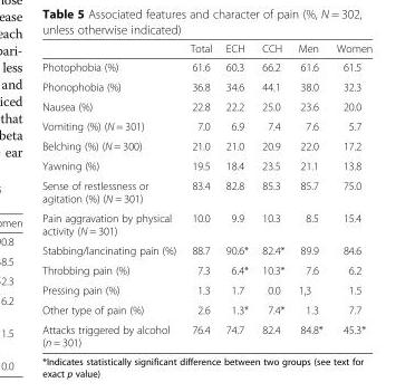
<table><thead><tr><td></td><td>Total</td><td>ECH</td><td>CCH</td><td>Men</td><td>Women</td></tr></thead><tbody><tr><td>Photophobia (%)</td><td>61.6</td><td>60.3</td><td>66.2</td><td>61.6</td><td>61.5</td></tr><tr><td>Phonophobia (%)</td><td>36.8</td><td>34.6</td><td>44.1</td><td>38.0</td><td>32.3</td></tr><tr><td>Nausea (%)</td><td>22.8</td><td>22.2</td><td>25.0</td><td>23.6</td><td>20.0</td></tr><tr><td>Vomiting (%) (N = 301)</td><td>7.0</td><td>6.9</td><td>7.4</td><td>7.6</td><td>5.7</td></tr><tr><td>Belching (%) (N = 300)</td><td>21.0</td><td>21.0</td><td>20.9</td><td>22.0</td><td>17.2</td></tr><tr><td>Yawning (%)</td><td>19.5</td><td>18.4</td><td>23.5</td><td>21.1</td><td>13.8</td></tr><tr><td>Sense of restlessness or agitation (%) (N = 301)</td><td>83.4</td><td>82.8</td><td>85.3</td><td>85.7</td><td>75.0</td></tr><tr><td>Pain aggravation by physical activity (N = 301)</td><td>10.0</td><td>9.9</td><td>10.3</td><td>8.5</td><td>15.4</td></tr><tr><td>Stabbing/lancinating pain (%)</td><td>88.7</td><td>90.6*</td><td>82.4*</td><td>89.9</td><td>84.6</td></tr><tr><td>Throbbing pain (%)</td><td>7.3</td><td>6.4*</td><td>10.3*</td><td>7.6</td><td>6.2</td></tr><tr><td>Pressing pain (%)</td><td>1.3</td><td>1.7</td><td>0.0</td><td>1,3</td><td>1.5</td></tr><tr><td>Other type of pain (%)</td><td>2.6</td><td>1.3*</td><td>7.4*</td><td>1.3</td><td>7.7</td></tr><tr><td>Attacks triggered by alcohol (n = 301)</td><td>76.4</td><td>74.7</td><td>82.4</td><td>84.8*</td><td>45.3*</td></tr></tbody></table>